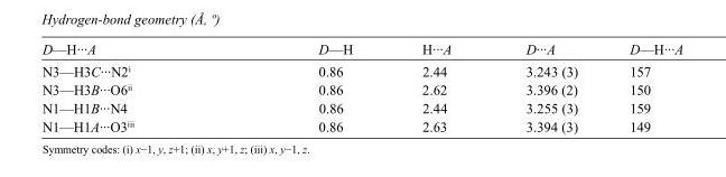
<table><tbody><tr><td>D—H···A</td><td>D—H</td><td>H···A</td><td>D···A</td><td>D—H···A</td></tr><tr><td>N3—H3C···N2<sup>i</sup></td><td>0.86</td><td>2.44</td><td>3.243 (3)</td><td>157</td></tr><tr><td>N3—H3B···O6<sup>ii</sup></td><td>0.86</td><td>2.62</td><td>3.396 (2)</td><td>150</td></tr><tr><td>N1—H1B···N4</td><td>0.86</td><td>2.44</td><td>3.255 (3)</td><td>159</td></tr><tr><td>N1—H1A···O3<sup>iii</sup></td><td>0.86</td><td>2.63</td><td>3.394 (3)</td><td>149</td></tr></tbody></table>